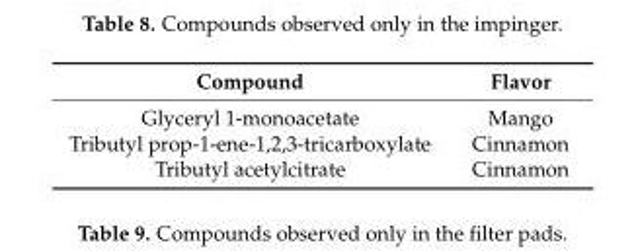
<table><thead><tr><td>Compound</td><td>Flavor</td></tr></thead><tbody><tr><td>Glyceryl 1-monoacetate</td><td>Mango</td></tr><tr><td>Tributyl prop-1-ene-1,2,3-tricarboxylate</td><td>Cinnamon</td></tr><tr><td>Tributyl acetylcitrate</td><td>Cinnamon</td></tr></tbody></table>